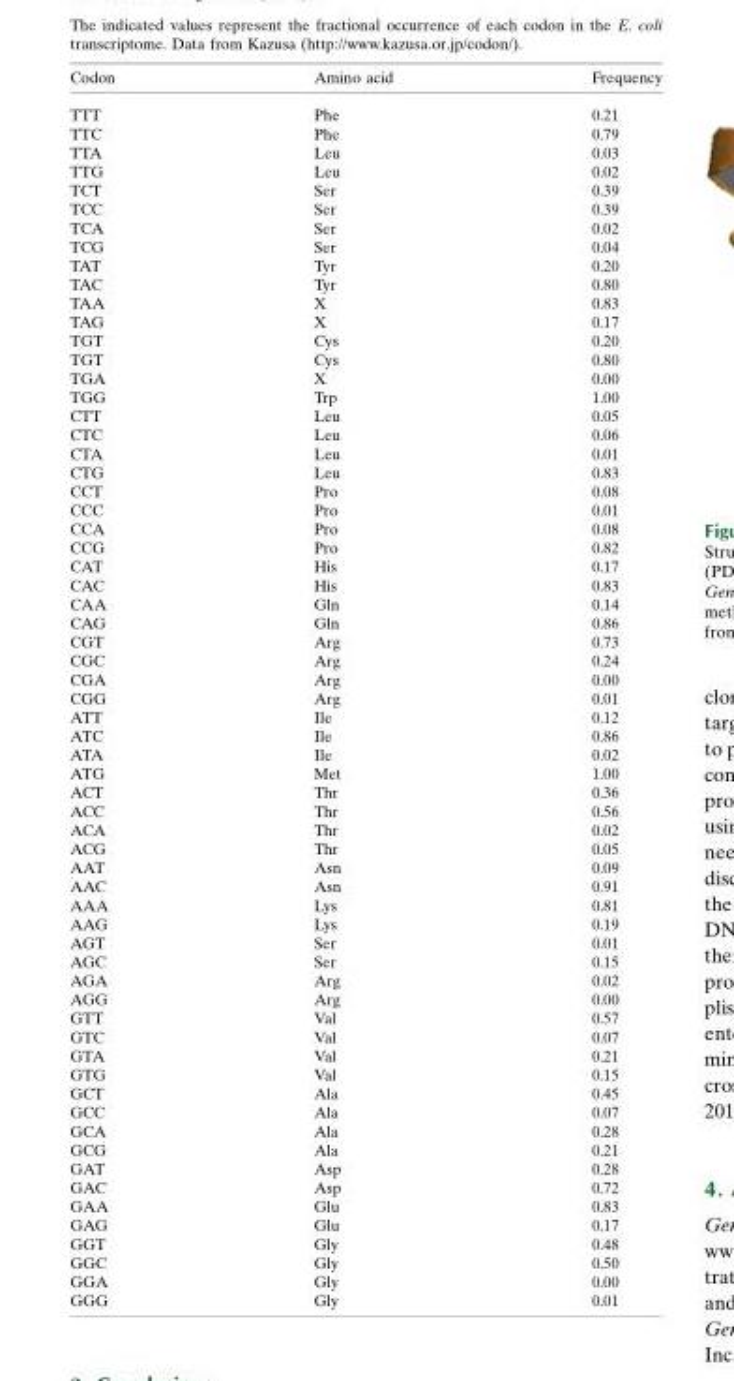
<table><thead><tr><td>Codon</td><td>Amino acid</td><td>Frequency</td></tr></thead><tbody><tr><td>TTT</td><td>Phe</td><td>0.21</td></tr><tr><td>TTC</td><td>Phe</td><td>0.79</td></tr><tr><td>TTA</td><td>Leu</td><td>0.03</td></tr><tr><td>TTG</td><td>Leu</td><td>0.02</td></tr><tr><td>TCT</td><td>Ser</td><td>0.39</td></tr><tr><td>TCC</td><td>Ser</td><td>0.39</td></tr><tr><td>TCA</td><td>Ser</td><td>0.02</td></tr><tr><td>TCG</td><td>Ser</td><td>0.04</td></tr><tr><td>TAT</td><td>Tyr</td><td>0.20</td></tr><tr><td>TAC</td><td>Tyr</td><td>0.80</td></tr><tr><td>TAA</td><td>X</td><td>0.83</td></tr><tr><td>TAG</td><td>X</td><td>0.17</td></tr><tr><td>TGT</td><td>Cys</td><td>0.20</td></tr><tr><td>TGT</td><td>Cys</td><td>0.80</td></tr><tr><td>TGA</td><td>X</td><td>0.00</td></tr><tr><td>TGG</td><td>Trp</td><td>1.00</td></tr><tr><td>CTT</td><td>Leu</td><td>0.05</td></tr><tr><td>CTC</td><td>Leu</td><td>0.06</td></tr><tr><td>CTA</td><td>Leu</td><td>0.01</td></tr><tr><td>CTG</td><td>Leu</td><td>0.83</td></tr><tr><td>CCT</td><td>Pro</td><td>0.08</td></tr><tr><td>CCC</td><td>Pro</td><td>0.01</td></tr><tr><td>CCA</td><td>Pro</td><td>0.08</td></tr><tr><td>CCG</td><td>Pro</td><td>0.82</td></tr><tr><td>CAT</td><td>His</td><td>0.17</td></tr><tr><td>CAC</td><td>His</td><td>0.83</td></tr><tr><td>CAA</td><td>Gln</td><td>0.14</td></tr><tr><td>CAG</td><td>Gln</td><td>0.86</td></tr><tr><td>CGT</td><td>Arg</td><td>0.73</td></tr><tr><td>CGC</td><td>Arg</td><td>0.24</td></tr><tr><td>CGA</td><td>Arg</td><td>0.00</td></tr><tr><td>CGG</td><td>Arg</td><td>0.01</td></tr><tr><td>ATT</td><td>Ile</td><td>0.12</td></tr><tr><td>ATC</td><td>Ile</td><td>0.86</td></tr><tr><td>ATA</td><td>Ile</td><td>0.02</td></tr><tr><td>ATG</td><td>Met</td><td>1.00</td></tr><tr><td>ACT</td><td>Thr</td><td>0.36</td></tr><tr><td>ACC</td><td>Thr</td><td>0.56</td></tr><tr><td>ACA</td><td>Thr</td><td>0.02</td></tr><tr><td>ACG</td><td>Thr</td><td>0.05</td></tr><tr><td>AAT</td><td>Asn</td><td>0.09</td></tr><tr><td>AAC</td><td>Asn</td><td>0.91</td></tr><tr><td>AAA</td><td>Lys</td><td>0.81</td></tr><tr><td>AAG</td><td>Lys</td><td>0.19</td></tr><tr><td>AGT</td><td>Ser</td><td>0.01</td></tr><tr><td>AGC</td><td>Ser</td><td>0.15</td></tr><tr><td>AGA</td><td>Arg</td><td>0.02</td></tr><tr><td>AGG</td><td>Arg</td><td>0.00</td></tr><tr><td>GTT</td><td>Val</td><td>0.57</td></tr><tr><td>GTC</td><td>Val</td><td>0.07</td></tr><tr><td>GTA</td><td>Val</td><td>0.21</td></tr><tr><td>GTG</td><td>Val</td><td>0.15</td></tr><tr><td>GCT</td><td>Ala</td><td>0.45</td></tr><tr><td>GCC</td><td>Ala</td><td>0.07</td></tr><tr><td>GCA</td><td>Ala</td><td>0.28</td></tr><tr><td>GCG</td><td>Ala</td><td>0.21</td></tr><tr><td>GAT</td><td>Asp</td><td>0.28</td></tr><tr><td>GAC</td><td>Asp</td><td>0.72</td></tr><tr><td>GAA</td><td>Glu</td><td>0.83</td></tr><tr><td>GAG</td><td>Glu</td><td>0.17</td></tr><tr><td>GGT</td><td>Gly</td><td>0.48</td></tr><tr><td>GGC</td><td>Gly</td><td>0.50</td></tr><tr><td>GGA</td><td>Gly</td><td>0.00</td></tr><tr><td>GGG</td><td>Gly</td><td>0.01</td></tr></tbody></table>